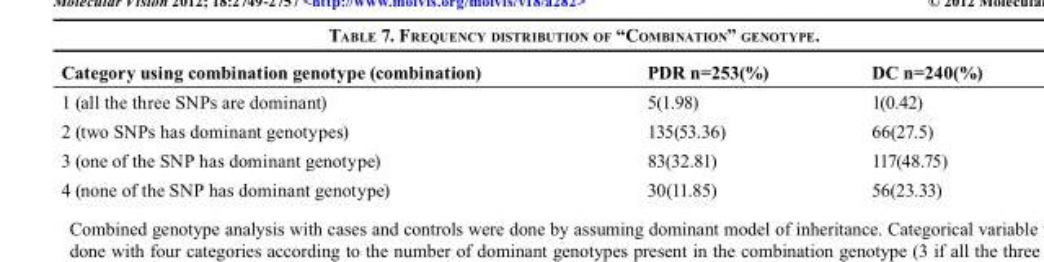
<table><thead><tr><td>Category using combination genotype (combination)</td><td>PDR n=253(%)</td><td>DC n=240(%)</td></tr></thead><tbody><tr><td>1 (all the three SNPs are dominant)</td><td>5(1.98)</td><td>1(0.42)</td></tr><tr><td>2 (two SNPs has dominant genotypes)</td><td>135(53.36)</td><td>66(27.5)</td></tr><tr><td>3 (one of the SNP has dominant genotype)</td><td>83(32.81)</td><td>117(48.75)</td></tr><tr><td>4 (none of the SNP has dominant genotype)</td><td>30(11.85)</td><td>56(23.33)</td></tr></tbody></table>